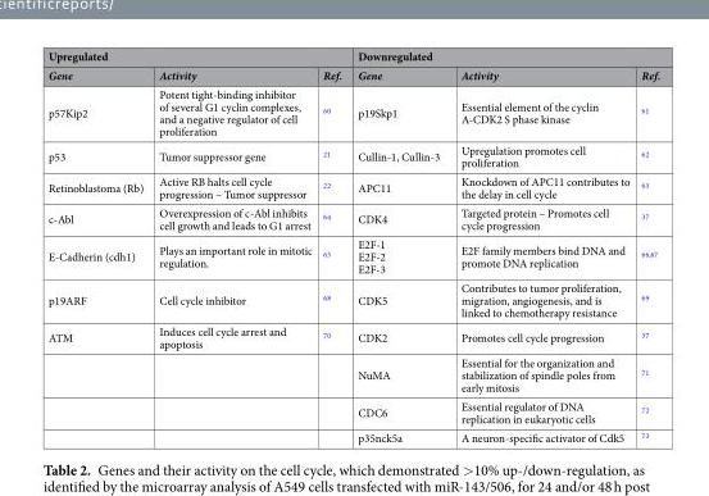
<table><thead><tr><td colspan="3">Upregulated</td><td colspan="3">Downregulated</td></tr><tr><td>Gene</td><td>Activity</td><td>Ref.</td><td>Gene</td><td>Activity</td><td>Ref.</td></tr></thead><tbody><tr><td>p57Kip2</td><td>Potent tight-binding inhibitor of several G1 cyclin complexes, and a negative regulator of cell proliferation</td><td><sup>60</sup></td><td>p19Skp1</td><td>Essential element of the cyclin A-CDK2 S phase kinase</td><td><sup>61</sup></td></tr><tr><td>p53</td><td>Tumor suppressor gene</td><td><sup>21</sup></td><td>Cullin-1, Cullin-3</td><td>Upregulation promotes cell proliferation</td><td><sup>62</sup></td></tr><tr><td>Retinoblastoma (Rb)</td><td>Active RB halts cell cycle progression – Tumor suppressor</td><td><sup>22</sup></td><td>APC11</td><td>Knockdown of APC11 contributes to the delay in cell cycle</td><td><sup>63</sup></td></tr><tr><td>c-Abl</td><td>Overexpression of c-Abl inhibits cell growth and leads to G1 arrest</td><td><sup>64</sup></td><td>CDK4</td><td>Targeted protein – Promotes cell cycle progression</td><td><sup>37</sup></td></tr><tr><td>E-Cadherin (cdh1)</td><td>Plays an important role in mitotic regulation.</td><td><sup>65</sup></td><td>E2F-1 E2F-2 E2F-3</td><td>E2F family members bind DNA and promote DNA replication</td><td><sup>66,67</sup></td></tr><tr><td>p19ARF</td><td>Cell cycle inhibitor</td><td><sup>68</sup></td><td>CDK5</td><td>Contributes to tumor proliferation, migration, angiogenesis, and is linked to chemotherapy resistance</td><td><sup>69</sup></td></tr><tr><td rowspan="4">ATM</td><td>Induces cell cycle arrest and apoptosis</td><td><sup>70</sup></td><td>CDK2</td><td>Promotes cell cycle progression</td><td><sup>37</sup></td></tr><tr><td></td><td></td><td>NuMA</td><td>Essential for the organization and stabilization of spindle poles from early mitosis</td><td><sup>71</sup></td></tr><tr><td></td><td></td><td>CDC6</td><td>Essential regulator of DNA replication in eukaryotic cells</td><td><sup>72</sup></td></tr><tr><td></td><td></td><td>p35nck5a</td><td>A neuron-specific activator of Cdk5</td><td><sup>73</sup></td></tr></tbody></table>